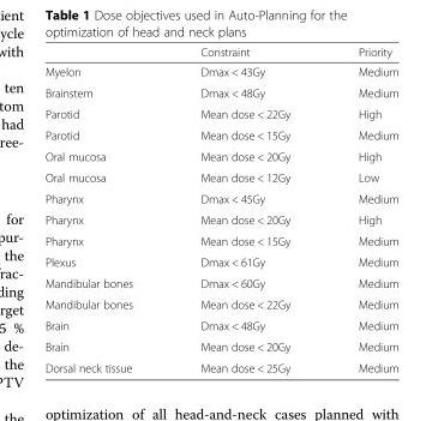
<table><thead><tr><td></td><td>Constraint</td><td>Priority</td></tr></thead><tbody><tr><td>Myelon</td><td>Dmax &lt; 43Gy</td><td>Medium</td></tr><tr><td>Brainstem</td><td>Dmax &lt; 48Gy</td><td>Medium</td></tr><tr><td>Parotid</td><td>Mean dose &lt; 22Gy</td><td>High</td></tr><tr><td>Parotid</td><td>Mean dose &lt; 15Gy</td><td>Medium</td></tr><tr><td>Oral mucosa</td><td>Mean dose &lt; 20Gy</td><td>High</td></tr><tr><td>Oral mucosa</td><td>Mean dose &lt; 12Gy</td><td>Low</td></tr><tr><td>Pharynx</td><td>Dmax &lt; 45Gy</td><td>Medium</td></tr><tr><td>Pharynx</td><td>Mean dose &lt; 20Gy</td><td>High</td></tr><tr><td>Pharynx</td><td>Mean dose &lt; 15Gy</td><td>Medium</td></tr><tr><td>Plexus</td><td>Dmax &lt; 61Gy</td><td>Medium</td></tr><tr><td>Mandibular bones</td><td>Dmax &lt; 60Gy</td><td>Medium</td></tr><tr><td>Mandibular bones</td><td>Mean dose &lt; 22Gy</td><td>Medium</td></tr><tr><td>Brain</td><td>Dmax &lt; 48Gy</td><td>Medium</td></tr><tr><td>Brain</td><td>Mean dose &lt; 20Gy</td><td>Medium</td></tr><tr><td>Dorsal neck tissue</td><td>Mean dose &lt; 25Gy</td><td>Medium</td></tr></tbody></table>